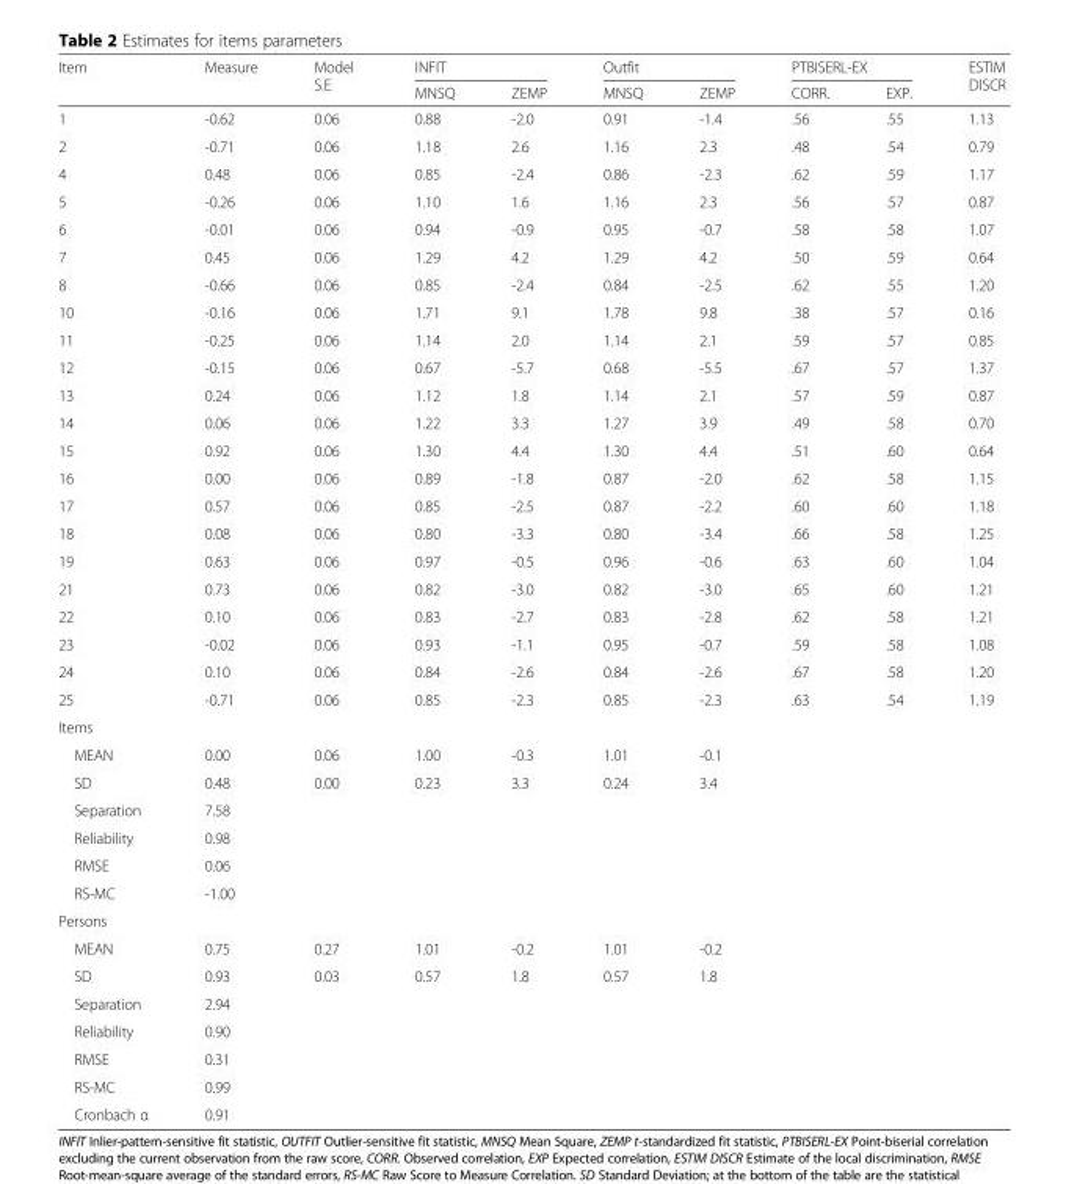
<table><thead><tr><td rowspan="2">Item</td><td rowspan="2">Measure</td><td rowspan="2">Model S.E</td><td colspan="2">INFIT</td><td colspan="2">Outfit</td><td colspan="2">PTBISERL-EX</td><td rowspan="2">ESTIM DISCR</td></tr><tr><td>MNSQ</td><td>ZEMP</td><td>MNSQ</td><td>ZEMP</td><td>CORR.</td><td>EXP.</td></tr></thead><tbody><tr><td>1</td><td>-0.62</td><td>0.06</td><td>0.88</td><td>-2.0</td><td>0.91</td><td>-1.4</td><td>.56</td><td>.55</td><td>1.13</td></tr><tr><td>2</td><td>-0.71</td><td>0.06</td><td>1.18</td><td>2.6</td><td>1.16</td><td>2.3</td><td>.48</td><td>.54</td><td>0.79</td></tr><tr><td>4</td><td>0.48</td><td>0.06</td><td>0.85</td><td>-2.4</td><td>0.86</td><td>-2.3</td><td>.62</td><td>.59</td><td>1.17</td></tr><tr><td>5</td><td>-0.26</td><td>0.06</td><td>1.10</td><td>1.6</td><td>1.16</td><td>2.3</td><td>.56</td><td>.57</td><td>0.87</td></tr><tr><td>6</td><td>-0.01</td><td>0.06</td><td>0.94</td><td>-0.9</td><td>0.95</td><td>-0.7</td><td>.58</td><td>.58</td><td>1.07</td></tr><tr><td>7</td><td>0.45</td><td>0.06</td><td>1.29</td><td>4.2</td><td>1.29</td><td>4.2</td><td>.50</td><td>.59</td><td>0.64</td></tr><tr><td>8</td><td>-0.66</td><td>0.06</td><td>0.85</td><td>-2.4</td><td>0.84</td><td>-2.5</td><td>.62</td><td>.55</td><td>1.20</td></tr><tr><td>10</td><td>-0.16</td><td>0.06</td><td>1.71</td><td>9.1</td><td>1.78</td><td>9.8</td><td>.38</td><td>.57</td><td>0.16</td></tr><tr><td>11</td><td>-0.25</td><td>0.06</td><td>1.14</td><td>2.0</td><td>1.14</td><td>2.1</td><td>.59</td><td>.57</td><td>0.85</td></tr><tr><td>12</td><td>-0.15</td><td>0.06</td><td>0.67</td><td>-5.7</td><td>0.68</td><td>-5.5</td><td>.67</td><td>.57</td><td>1.37</td></tr><tr><td>13</td><td>0.24</td><td>0.06</td><td>1.12</td><td>1.8</td><td>1.14</td><td>2.1</td><td>.57</td><td>.59</td><td>0.87</td></tr><tr><td>14</td><td>0.06</td><td>0.06</td><td>1.22</td><td>3.3</td><td>1.27</td><td>3.9</td><td>.49</td><td>.58</td><td>0.70</td></tr><tr><td>15</td><td>0.92</td><td>0.06</td><td>1.30</td><td>4.4</td><td>1.30</td><td>4.4</td><td>.51</td><td>.60</td><td>0.64</td></tr><tr><td>16</td><td>0.00</td><td>0.06</td><td>0.89</td><td>-1.8</td><td>0.87</td><td>-2.0</td><td>.62</td><td>.58</td><td>1.15</td></tr><tr><td>17</td><td>0.57</td><td>0.06</td><td>0.85</td><td>-2.5</td><td>0.87</td><td>-2.2</td><td>.60</td><td>.60</td><td>1.18</td></tr><tr><td>18</td><td>0.08</td><td>0.06</td><td>0.80</td><td>-3.3</td><td>0.80</td><td>-3.4</td><td>.66</td><td>.58</td><td>1.25</td></tr><tr><td>19</td><td>0.63</td><td>0.06</td><td>0.97</td><td>-0.5</td><td>0.96</td><td>-0.6</td><td>.63</td><td>.60</td><td>1.04</td></tr><tr><td>21</td><td>0.73</td><td>0.06</td><td>0.82</td><td>-3.0</td><td>0.82</td><td>-3.0</td><td>.65</td><td>.60</td><td>1.21</td></tr><tr><td>22</td><td>0.10</td><td>0.06</td><td>0.83</td><td>-2.7</td><td>0.83</td><td>-2.8</td><td>.62</td><td>.58</td><td>1.21</td></tr><tr><td>23</td><td>-0.02</td><td>0.06</td><td>0.93</td><td>-1.1</td><td>0.95</td><td>-0.7</td><td>.59</td><td>.58</td><td>1.08</td></tr><tr><td>24</td><td>0.10</td><td>0.06</td><td>0.84</td><td>-2.6</td><td>0.84</td><td>-2.6</td><td>.67</td><td>.58</td><td>1.20</td></tr><tr><td>25</td><td>-0.71</td><td>0.06</td><td>0.85</td><td>-2.3</td><td>0.85</td><td>-2.3</td><td>.63</td><td>.54</td><td>1.19</td></tr><tr><td colspan="10">Items</td></tr><tr><td>MEAN</td><td>0.00</td><td>0.06</td><td>1.00</td><td>-0.3</td><td>1.01</td><td>-0.1</td><td></td><td></td><td></td></tr><tr><td>SD</td><td>0.48</td><td>0.00</td><td>0.23</td><td>3.3</td><td>0.24</td><td>3.4</td><td></td><td></td><td></td></tr><tr><td>Separation</td><td>7.58</td><td></td><td></td><td></td><td></td><td></td><td></td><td></td><td></td></tr><tr><td>Reliability</td><td>0.98</td><td></td><td></td><td></td><td></td><td></td><td></td><td></td><td></td></tr><tr><td>RMSE</td><td>0.06</td><td></td><td></td><td></td><td></td><td></td><td></td><td></td><td></td></tr><tr><td>RS-MC</td><td>-1.00</td><td></td><td></td><td></td><td></td><td></td><td></td><td></td><td></td></tr><tr><td colspan="10">Persons</td></tr><tr><td>MEAN</td><td>0.75</td><td>0.27</td><td>1.01</td><td>-0.2</td><td>1.01</td><td>-0.2</td><td></td><td></td><td></td></tr><tr><td>SD</td><td>0.93</td><td>0.03</td><td>0.57</td><td>1.8</td><td>0.57</td><td>1.8</td><td></td><td></td><td></td></tr><tr><td>Separation</td><td>2.94</td><td></td><td></td><td></td><td></td><td></td><td></td><td></td><td></td></tr><tr><td>Reliability</td><td>0.90</td><td></td><td></td><td></td><td></td><td></td><td></td><td></td><td></td></tr><tr><td>RMSE</td><td>0.31</td><td></td><td></td><td></td><td></td><td></td><td></td><td></td><td></td></tr><tr><td>RS-MC</td><td>0.99</td><td></td><td></td><td></td><td></td><td></td><td></td><td></td><td></td></tr><tr><td>Cronbach α</td><td>0.91</td><td></td><td></td><td></td><td></td><td></td><td></td><td></td><td></td></tr></tbody></table>